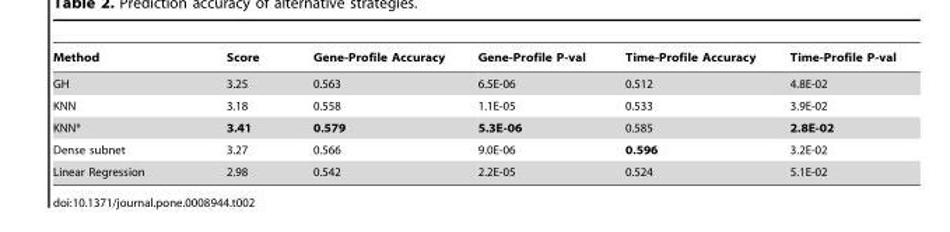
<table><thead><tr><td>Method</td><td>Score</td><td>Gene-Profile Accuracy</td><td>Gene-Profile P-val</td><td>Time-Profile Accuracy</td><td>Time-Profile P-val</td></tr></thead><tbody><tr><td>GH</td><td>3.25</td><td>0.563</td><td>6.5E-06</td><td>0.512</td><td>4.8E-02</td></tr><tr><td>KNN</td><td>3.18</td><td>0.558</td><td>1.1E-05</td><td>0.533</td><td>3.9E-02</td></tr><tr><td>KNN*</td><td>3.41</td><td>0.579</td><td>5.3E-06</td><td>0.585</td><td>2.8E-02</td></tr><tr><td>Dense subnet</td><td>3.27</td><td>0.566</td><td>9.0E-06</td><td>0.596</td><td>3.2E-02</td></tr><tr><td>Linear Regression</td><td>2.98</td><td>0.542</td><td>2.2E-05</td><td>0.524</td><td>5.1E-02</td></tr></tbody></table>